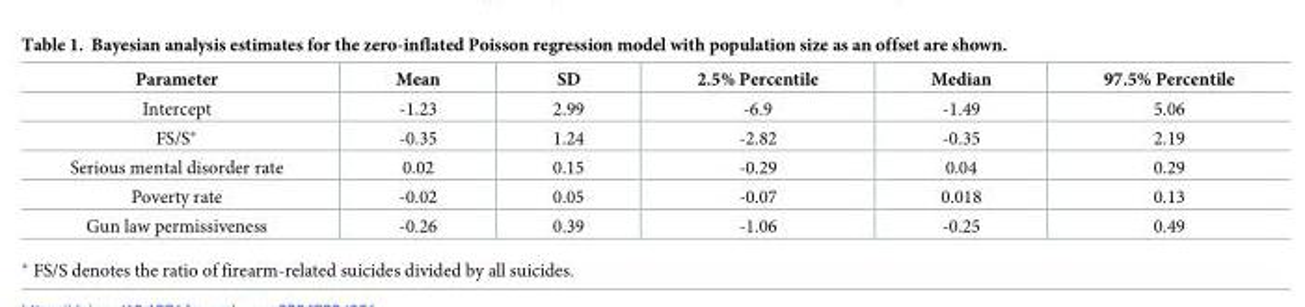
<table><thead><tr><td>Parameter</td><td>Mean</td><td>SD</td><td>2.5% Percentile</td><td>Median</td><td>97.5% Percentile</td></tr></thead><tbody><tr><td>Intercept</td><td>-1.23</td><td>2.99</td><td>-6.9</td><td>-1.49</td><td>5.06</td></tr><tr><td>FS/S*</td><td>-0.35</td><td>1.24</td><td>-2.82</td><td>-0.35</td><td>2.19</td></tr><tr><td>Serious mental disorder rate</td><td>0.02</td><td>0.15</td><td>-0.29</td><td>0.04</td><td>0.29</td></tr><tr><td>Poverty rate</td><td>-0.02</td><td>0.05</td><td>-0.07</td><td>0.018</td><td>0.13</td></tr><tr><td>Gun law permissiveness</td><td>-0.26</td><td>0.39</td><td>-1.06</td><td>-0.25</td><td>0.49</td></tr></tbody></table>